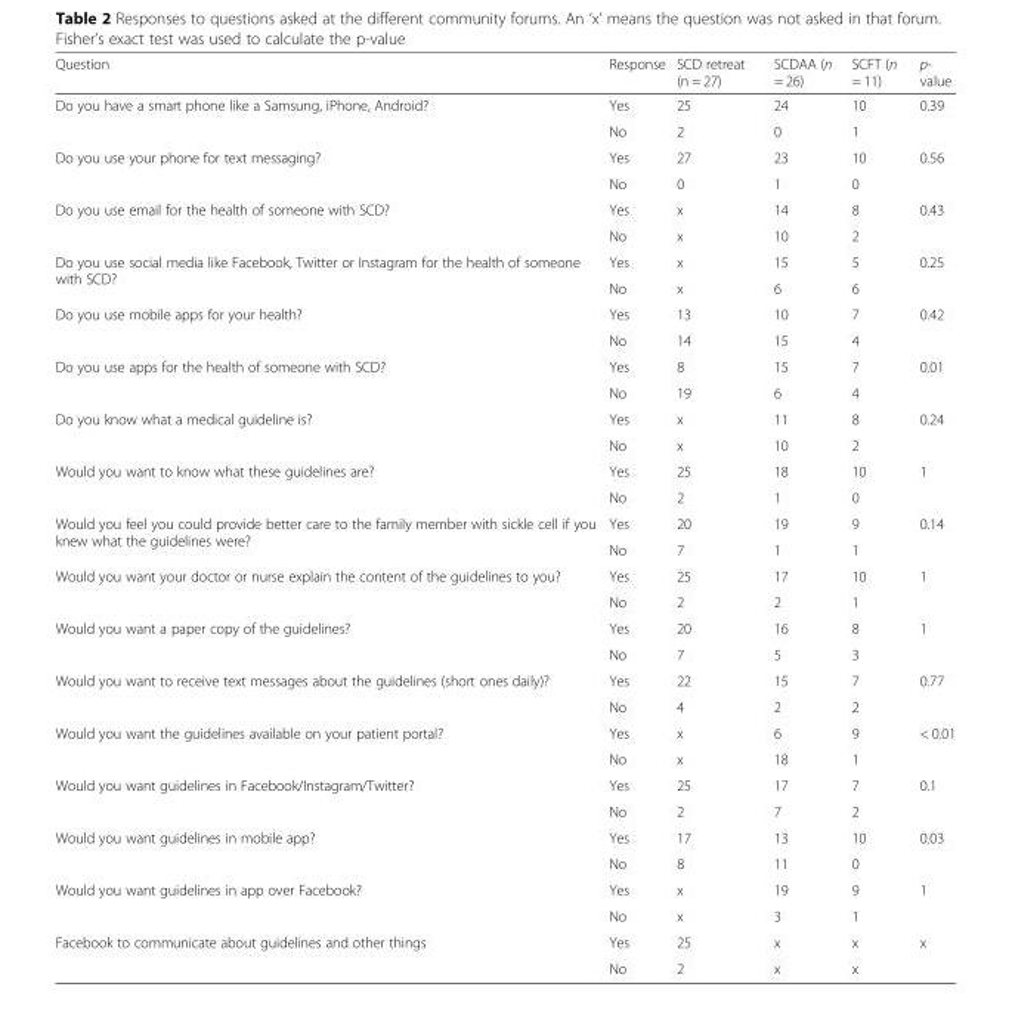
<table><thead><tr><td>Question</td><td>Response</td><td>SCD retreat (n = 27)</td><td>SCDAA (n = 26)</td><td>SCFT (n = 11)</td><td>p- value</td></tr></thead><tbody><tr><td rowspan="2">Do you have a smart phone like a Samsung, iPhone, Android?</td><td>Yes</td><td>25</td><td>24</td><td>10</td><td>0.39</td></tr><tr><td>No</td><td>2</td><td>0</td><td>1</td><td></td></tr><tr><td rowspan="2">Do you use your phone for text messaging?</td><td>Yes</td><td>27</td><td>23</td><td>10</td><td>0.56</td></tr><tr><td>No</td><td>0</td><td>1</td><td>0</td><td></td></tr><tr><td rowspan="2">Do you use email for the health of someone with SCD?</td><td>Yes</td><td>x</td><td>14</td><td>8</td><td>0.43</td></tr><tr><td>No</td><td>x</td><td>10</td><td>2</td><td></td></tr><tr><td rowspan="2">Do you use social media like Facebook, Twitter or Instagram for the health of someone with SCD?</td><td>Yes</td><td>x</td><td>15</td><td>5</td><td>0.25</td></tr><tr><td>No</td><td>x</td><td>6</td><td>6</td><td></td></tr><tr><td rowspan="2">Do you use mobile apps for your health?</td><td>Yes</td><td>13</td><td>10</td><td>7</td><td>0.42</td></tr><tr><td>No</td><td>14</td><td>15</td><td>4</td><td></td></tr><tr><td rowspan="2">Do you use apps for the health of someone with SCD?</td><td>Yes</td><td>8</td><td>15</td><td>7</td><td>0.01</td></tr><tr><td>No</td><td>19</td><td>6</td><td>4</td><td></td></tr><tr><td rowspan="2">Do you know what a medical guideline is?</td><td>Yes</td><td>x</td><td>11</td><td>8</td><td>0.24</td></tr><tr><td>No</td><td>x</td><td>10</td><td>2</td><td></td></tr><tr><td rowspan="2">Would you want to know what these guidelines are?</td><td>Yes</td><td>25</td><td>18</td><td>10</td><td>1</td></tr><tr><td>No</td><td>2</td><td>1</td><td>0</td><td></td></tr><tr><td rowspan="2">Would you feel you could provide better care to the family member with sickle cell if you knew what the guidelines were?</td><td>Yes</td><td>20</td><td>19</td><td>9</td><td>0.14</td></tr><tr><td>No</td><td>7</td><td>1</td><td>1</td><td></td></tr><tr><td rowspan="2">Would you want your doctor or nurse explain the content of the guidelines to you?</td><td>Yes</td><td>25</td><td>17</td><td>10</td><td>1</td></tr><tr><td>No</td><td>2</td><td>2</td><td>1</td><td></td></tr><tr><td rowspan="2">Would you want a paper copy of the guidelines?</td><td>Yes</td><td>20</td><td>16</td><td>8</td><td>1</td></tr><tr><td>No</td><td>7</td><td>5</td><td>3</td><td></td></tr><tr><td rowspan="2">Would you want to receive text messages about the guidelines (short ones daily)?</td><td>Yes</td><td>22</td><td>15</td><td>7</td><td>0.77</td></tr><tr><td>No</td><td>4</td><td>2</td><td>2</td><td></td></tr><tr><td rowspan="2">Would you want the guidelines available on your patient portal?</td><td>Yes</td><td>x</td><td>6</td><td>9</td><td>&lt; 0.01</td></tr><tr><td>No</td><td>x</td><td>18</td><td>1</td><td></td></tr><tr><td rowspan="2">Would you want guidelines in Facebook/Instagram/Twitter?</td><td>Yes</td><td>25</td><td>17</td><td>7</td><td>0.1</td></tr><tr><td>No</td><td>2</td><td>7</td><td>2</td><td></td></tr><tr><td rowspan="2">Would you want guidelines in mobile app?</td><td>Yes</td><td>17</td><td>13</td><td>10</td><td>0.03</td></tr><tr><td>No</td><td>8</td><td>11</td><td>0</td><td></td></tr><tr><td rowspan="2">Would you want guidelines in app over Facebook?</td><td>Yes</td><td>x</td><td>19</td><td>9</td><td>1</td></tr><tr><td>No</td><td>x</td><td>3</td><td>1</td><td></td></tr><tr><td rowspan="2">Facebook to communicate about guidelines and other things</td><td>Yes</td><td>25</td><td>x</td><td>x</td><td>x</td></tr><tr><td>No</td><td>2</td><td>x</td><td>x</td><td></td></tr></tbody></table>